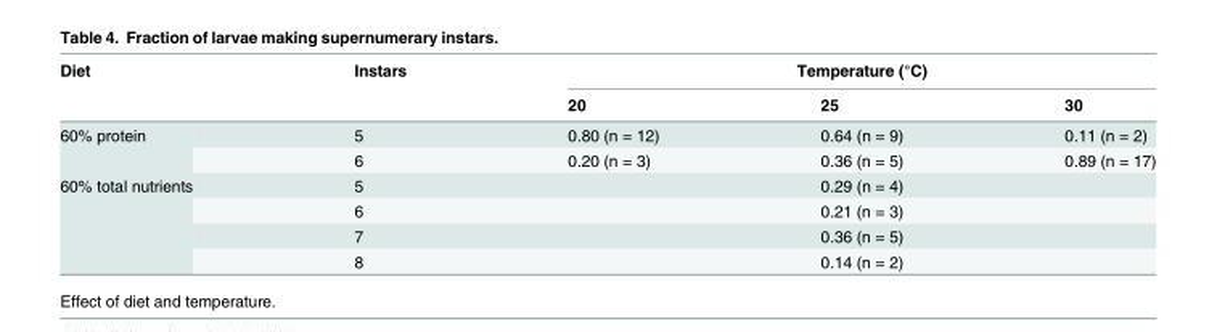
<table><thead><tr><td rowspan="2">Diet</td><td rowspan="2">Instars</td><td colspan="3">Temperature (°C)</td></tr><tr><td>20</td><td>25</td><td>30</td></tr></thead><tbody><tr><td rowspan="2">60% protein</td><td>5</td><td>0.80 (n = 12)</td><td>0.64 (n = 9)</td><td>0.11 (n = 2)</td></tr><tr><td>6</td><td>0.20 (n = 3)</td><td>0.36 (n = 5)</td><td>0.89 (n = 17)</td></tr><tr><td rowspan="4">60% total nutrients</td><td>5</td><td></td><td>0.29 (n = 4)</td><td></td></tr><tr><td>6</td><td></td><td>0.21 (n = 3)</td><td></td></tr><tr><td>7</td><td></td><td>0.36 (n = 5)</td><td></td></tr><tr><td>8</td><td></td><td>0.14 (n = 2)</td><td></td></tr></tbody></table>